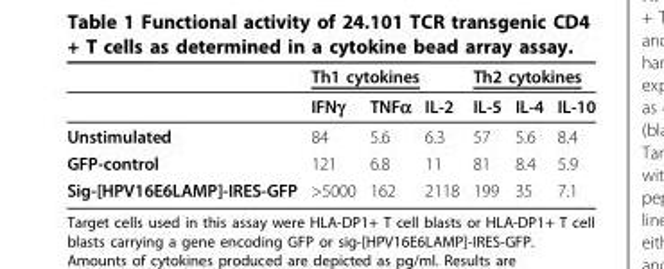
<table><thead><tr><td rowspan="2"></td><td colspan="3">Th1 cytokines</td><td colspan="3">Th2 cytokines</td></tr><tr><td>IFNγ</td><td>TNFα</td><td>IL-2</td><td>IL-5</td><td>IL-4</td><td>IL-10</td></tr></thead><tbody><tr><td>Unstimulated</td><td>84</td><td>5.6</td><td>6.3</td><td>57</td><td>5.6</td><td>8.4</td></tr><tr><td>GFP-control</td><td>121</td><td>6.8</td><td>11</td><td>81</td><td>8.4</td><td>5.9</td></tr><tr><td>Sig-[HPV16E6LAMP]-IRES-GFP</td><td>&gt;5000</td><td>162</td><td>2118</td><td>199</td><td>35</td><td>7.1</td></tr></tbody></table>